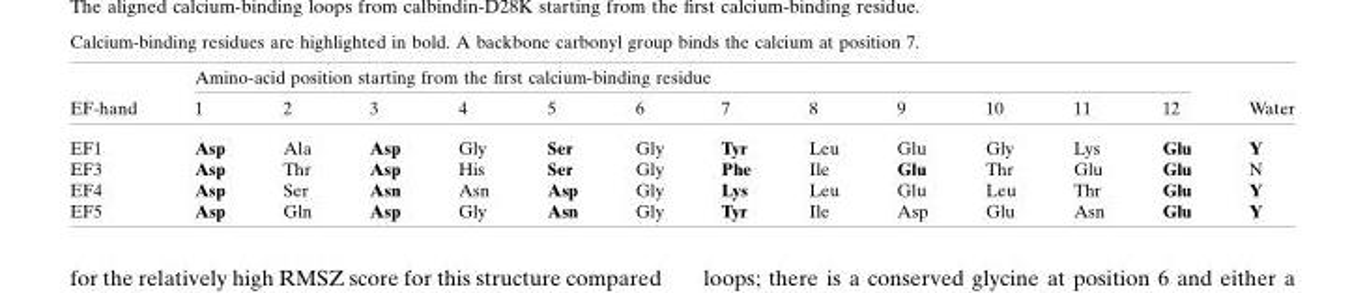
<table><thead><tr><td rowspan="2">EF-hand</td><td colspan="12">Amino-acid position starting from the first calcium-binding residue</td><td rowspan="2">Water</td></tr><tr><td>1</td><td>2</td><td>3</td><td>4</td><td>5</td><td>6</td><td>7</td><td>8</td><td>9</td><td>10</td><td>11</td><td>12</td></tr></thead><tbody><tr><td>EF1</td><td>Asp</td><td>Ala</td><td>Asp</td><td>Gly</td><td>Ser</td><td>Gly</td><td>Tyr</td><td>Leu</td><td>Glu</td><td>Gly</td><td>Lys</td><td>Glu</td><td>Y</td></tr><tr><td>EF3</td><td>Asp</td><td>Thr</td><td>Asp</td><td>His</td><td>Ser</td><td>Gly</td><td>Phe</td><td>Ile</td><td>Glu</td><td>Thr</td><td>Glu</td><td>Glu</td><td>N</td></tr><tr><td>EF4</td><td>Asp</td><td>Ser</td><td>Asn</td><td>Asn</td><td>Asp</td><td>Gly</td><td>Lys</td><td>Leu</td><td>Glu</td><td>Leu</td><td>Thr</td><td>Glu</td><td>Y</td></tr><tr><td>EF5</td><td>Asp</td><td>Gln</td><td>Asp</td><td>Gly</td><td>Asn</td><td>Gly</td><td>Tyr</td><td>Ile</td><td>Asp</td><td>Glu</td><td>Asn</td><td>Glu</td><td>Y</td></tr></tbody></table>